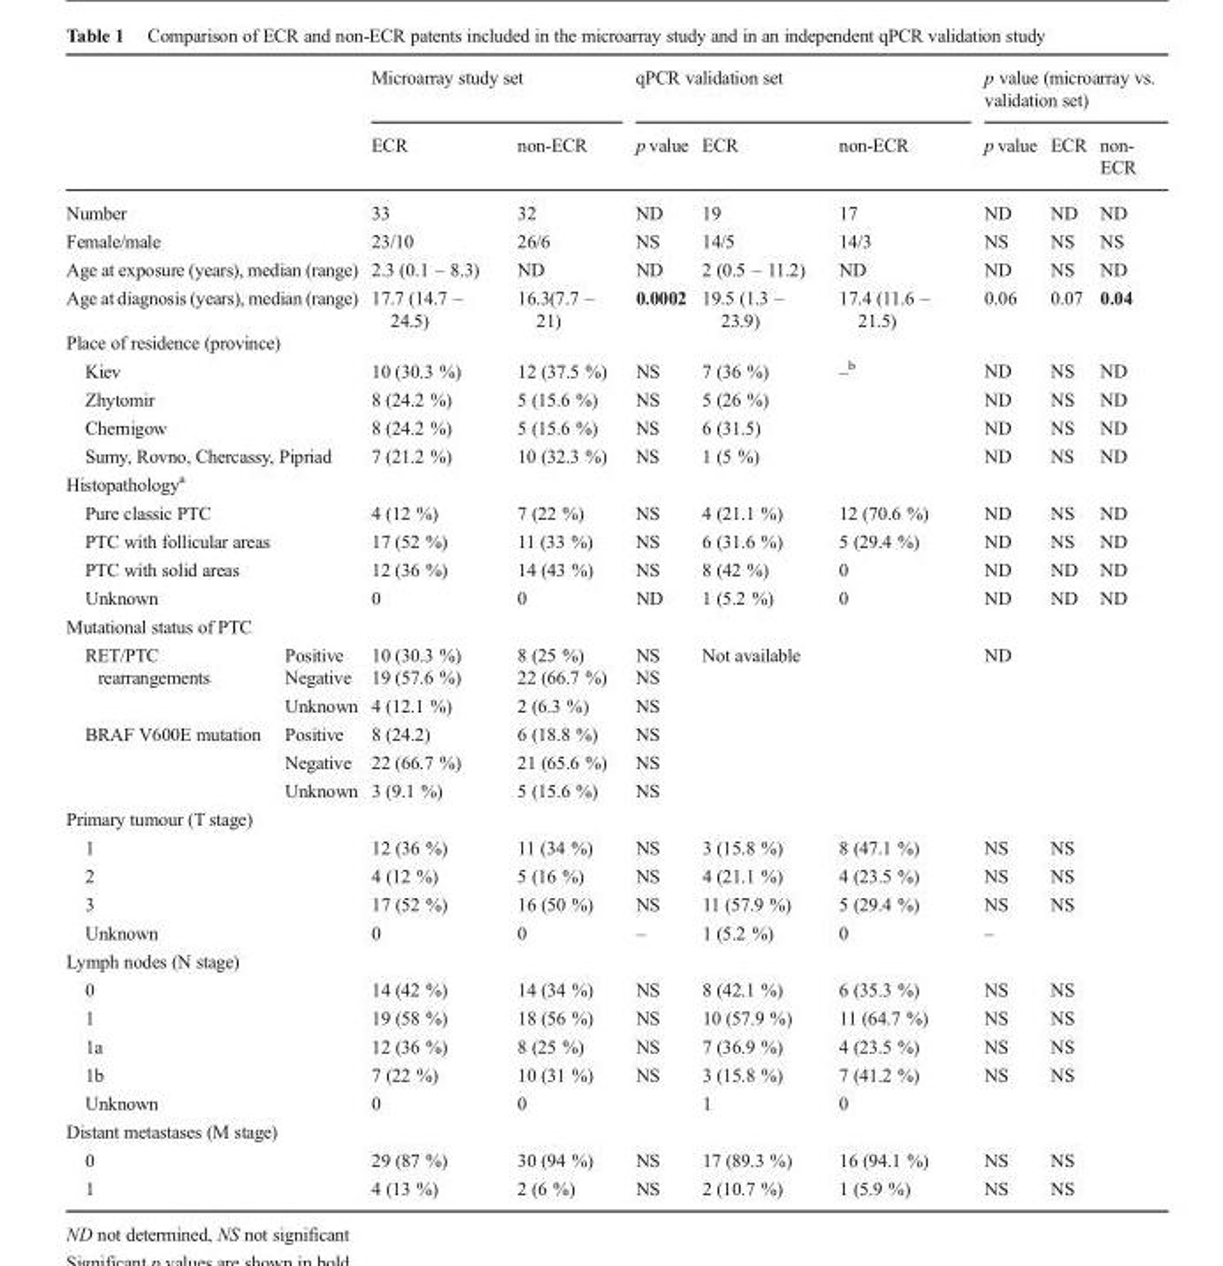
<table><thead><tr><td rowspan="2"></td><td rowspan="2"></td><td colspan="2">Microarray study set</td><td colspan="3">qPCR validation set</td><td colspan="3">p value (microarray vs. validation set)</td></tr><tr><td>ECR</td><td>non-ECR</td><td>p value</td><td>ECR</td><td>non-ECR</td><td>p value</td><td>ECR</td><td>non- ECR</td></tr></thead><tbody><tr><td colspan="2">Number</td><td>33</td><td>32</td><td>ND</td><td>19</td><td>17</td><td>ND</td><td>ND</td><td>ND</td></tr><tr><td colspan="2">Female/male</td><td>23/10</td><td>26/6</td><td>NS</td><td>14/5</td><td>14/3</td><td>NS</td><td>NS</td><td>NS</td></tr><tr><td colspan="2">Age at exposure (years), median (range)</td><td>2.3 (0.1 – 8.3)</td><td>ND</td><td>ND</td><td>2 (0.5 – 11.2)</td><td>ND</td><td>ND</td><td>NS</td><td>ND</td></tr><tr><td colspan="2">Age at diagnosis (years), median (range)</td><td>17.7 (14.7 – 24.5)</td><td>16.3(7.7 – 21)</td><td>0.0002</td><td>19.5 (1.3 – 23.9)</td><td>17.4 (11.6 – 21.5)</td><td>0.06</td><td>0.07</td><td>0.04</td></tr><tr><td colspan="10">Place of residence (province)</td></tr><tr><td colspan="2">Kiev</td><td>10 (30.3 %)</td><td>12 (37.5 %)</td><td>NS</td><td>7 (36 %)</td><td rowspan="4">–<sup>b</sup></td><td>ND</td><td>NS</td><td>ND</td></tr><tr><td colspan="2">Zhytomir</td><td>8 (24.2 %)</td><td>5 (15.6 %)</td><td>NS</td><td>5 (26 %)</td><td>ND</td><td>NS</td><td>ND</td></tr><tr><td colspan="2">Chernigow</td><td>8 (24.2 %)</td><td>5 (15.6 %)</td><td>NS</td><td>6 (31.5)</td><td>ND</td><td>NS</td><td>ND</td></tr><tr><td colspan="2">Sumy, Rovno, Chercassy, Pipriad</td><td>7 (21.2 %)</td><td>10 (32.3 %)</td><td>NS</td><td>1 (5 %)</td><td>ND</td><td>NS</td><td>ND</td></tr><tr><td colspan="10">Histopathology<sup>a</sup></td></tr><tr><td colspan="2">Pure classic PTC</td><td>4 (12 %)</td><td>7 (22 %)</td><td>NS</td><td>4 (21.1 %)</td><td>12 (70.6 %)</td><td>ND</td><td>NS</td><td>ND</td></tr><tr><td colspan="2">PTC with follicular areas</td><td>17 (52 %)</td><td>11 (33 %)</td><td>NS</td><td>6 (31.6 %)</td><td>5 (29.4 %)</td><td>ND</td><td>NS</td><td>ND</td></tr><tr><td colspan="2">PTC with solid areas</td><td>12 (36 %)</td><td>14 (43 %)</td><td>NS</td><td>8 (42 %)</td><td>0</td><td>ND</td><td>ND</td><td>ND</td></tr><tr><td colspan="2">Unknown</td><td>0</td><td>0</td><td>ND</td><td>1 (5.2 %)</td><td>0</td><td>ND</td><td>ND</td><td>ND</td></tr><tr><td colspan="10">Mutational status of PTC</td></tr><tr><td rowspan="3">RET/PTC rearrangements</td><td>Positive</td><td>10 (30.3 %)</td><td>8 (25 %)</td><td>NS</td><td rowspan="6" colspan="2">Not available</td><td rowspan="6" colspan="3">ND</td></tr><tr><td>Negative</td><td>19 (57.6 %)</td><td>22 (66.7 %)</td><td>NS</td></tr><tr><td>Unknown</td><td>4 (12.1 %)</td><td>2 (6.3 %)</td><td>NS</td></tr><tr><td rowspan="3">BRAF V600E mutation</td><td>Positive</td><td>8 (24.2)</td><td>6 (18.8 %)</td><td>NS</td></tr><tr><td>Negative</td><td>22 (66.7 %)</td><td>21 (65.6 %)</td><td>NS</td></tr><tr><td>Unknown</td><td>3 (9.1 %)</td><td>5 (15.6 %)</td><td>NS</td></tr><tr><td colspan="10">Primary tumour (T stage)</td></tr><tr><td colspan="2">1</td><td>12 (36 %)</td><td>11 (34 %)</td><td>NS</td><td>3 (15.8 %)</td><td>8 (47.1 %)</td><td>NS</td><td>NS</td><td></td></tr><tr><td colspan="2">2</td><td>4 (12 %)</td><td>5 (16 %)</td><td>NS</td><td>4 (21.1 %)</td><td>4 (23.5 %)</td><td>NS</td><td>NS</td><td></td></tr><tr><td colspan="2">3</td><td>17 (52 %)</td><td>16 (50 %)</td><td>NS</td><td>11 (57.9 %)</td><td>5 (29.4 %)</td><td>NS</td><td>NS</td><td></td></tr><tr><td colspan="2">Unknown</td><td>0</td><td>0</td><td>–</td><td>1 (5.2 %)</td><td>0</td><td>–</td><td></td><td></td></tr><tr><td colspan="10">Lymph nodes (N stage)</td></tr><tr><td colspan="2">0</td><td>14 (42 %)</td><td>14 (34 %)</td><td>NS</td><td>8 (42.1 %)</td><td>6 (35.3 %)</td><td>NS</td><td>NS</td><td></td></tr><tr><td colspan="2">1</td><td>19 (58 %)</td><td>18 (56 %)</td><td>NS</td><td>10 (57.9 %)</td><td>11 (64.7 %)</td><td>NS</td><td>NS</td><td></td></tr><tr><td colspan="2">1a</td><td>12 (36 %)</td><td>8 (25 %)</td><td>NS</td><td>7 (36.9 %)</td><td>4 (23.5 %)</td><td>NS</td><td>NS</td><td></td></tr><tr><td colspan="2">1b</td><td>7 (22 %)</td><td>10 (31 %)</td><td>NS</td><td>3 (15.8 %)</td><td>7 (41.2 %)</td><td>NS</td><td>NS</td><td></td></tr><tr><td colspan="2">Unknown</td><td>0</td><td>0</td><td></td><td>1</td><td>0</td><td></td><td></td><td></td></tr><tr><td colspan="10">Distant metastases (M stage)</td></tr><tr><td colspan="2">0</td><td>29 (87 %)</td><td>30 (94 %)</td><td>NS</td><td>17 (89.3 %)</td><td>16 (94.1 %)</td><td>NS</td><td>NS</td><td></td></tr><tr><td colspan="2">1</td><td>4 (13 %)</td><td>2 (6 %)</td><td>NS</td><td>2 (10.7 %)</td><td>1 (5.9 %)</td><td>NS</td><td>NS</td><td></td></tr></tbody></table>